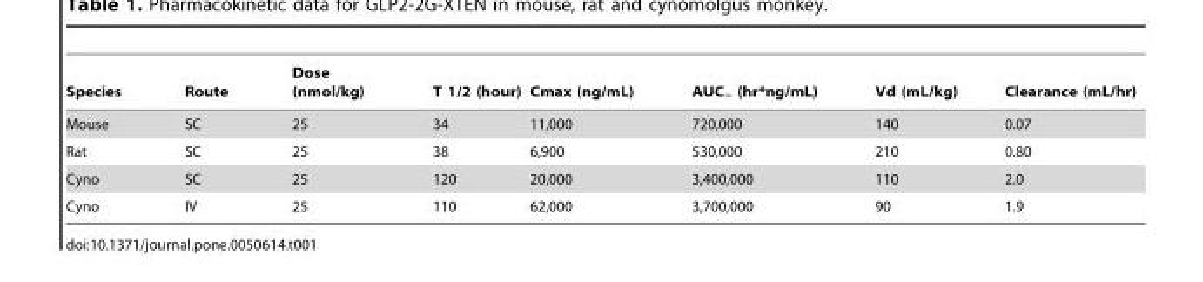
<table><thead><tr><td>Species</td><td>Route</td><td>Dose (nmol/kg)</td><td>T 1/2 (hour)</td><td>Cmax (ng/mL)</td><td>AUC‘ (hr*ng/mL)</td><td>Vd (mL/kg)</td><td>Clearance (mL/hr)</td></tr></thead><tbody><tr><td>Mouse</td><td>SC</td><td>25</td><td>34</td><td>11,000</td><td>720,000</td><td>140</td><td>0.07</td></tr><tr><td>Rat</td><td>SC</td><td>25</td><td>38</td><td>6,900</td><td>530,000</td><td>210</td><td>0.80</td></tr><tr><td>Cyno</td><td>SC</td><td>25</td><td>120</td><td>20,000</td><td>3,400,000</td><td>110</td><td>2.0</td></tr><tr><td>Cyno</td><td>IV</td><td>25</td><td>110</td><td>62,000</td><td>3,700,000</td><td>90</td><td>1.9</td></tr></tbody></table>